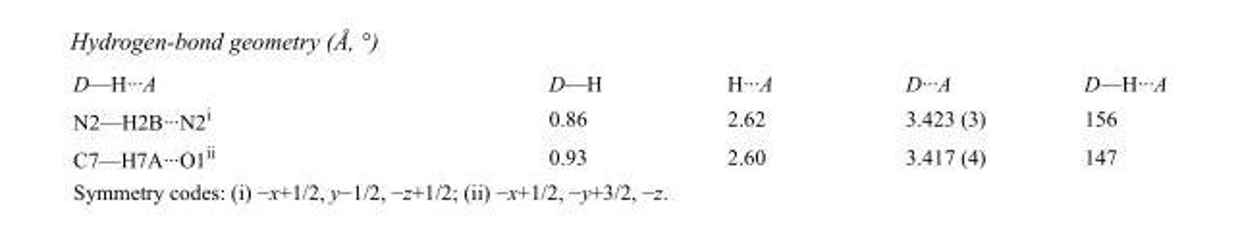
<table><tbody><tr><td>D—H···A</td><td>D—H</td><td>H···A</td><td>D···A</td><td>D—H···A</td></tr><tr><td>N2—H2B···N2<sup>i</sup></td><td>0.86</td><td>2.62</td><td>3.423 (3)</td><td>156</td></tr><tr><td>C7—H7A···O1<sup>ii</sup></td><td>0.93</td><td>2.60</td><td>3.417 (4)</td><td>147</td></tr></tbody></table>